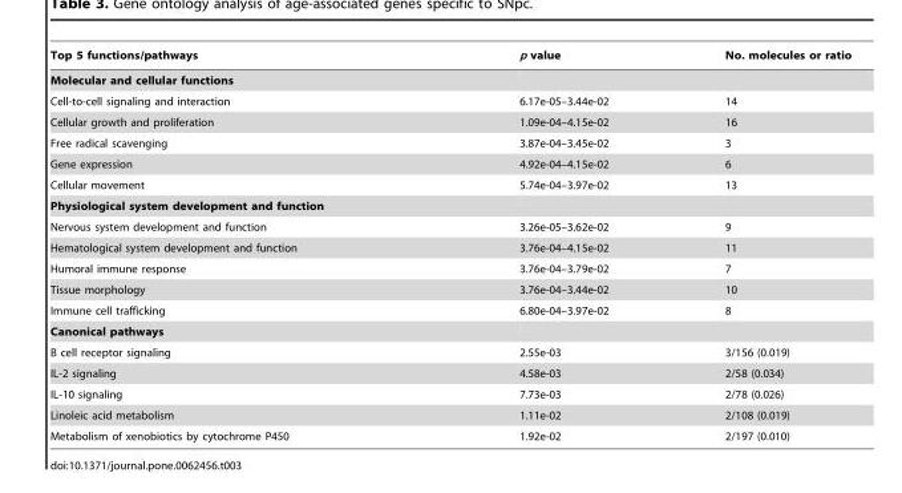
<table><thead><tr><td>Top 5 functions/pathways</td><td>p value</td><td>No. molecules or ratio</td></tr></thead><tbody><tr><td colspan="3">Molecular and cellular functions</td></tr><tr><td>Cell-to-cell signaling and interaction</td><td>6.17e-05–3.44e-02</td><td>14</td></tr><tr><td>Cellular growth and proliferation</td><td>1.09e-04–4.15e-02</td><td>16</td></tr><tr><td>Free radical scavenging</td><td>3.87e-04–3.45e-02</td><td>3</td></tr><tr><td>Gene expression</td><td>4.92e-04–4.15e-02</td><td>6</td></tr><tr><td>Cellular movement</td><td>5.74e-04–3.97e-02</td><td>13</td></tr><tr><td colspan="3">Physiological system development and function</td></tr><tr><td>Nervous system development and function</td><td>3.26e-05–3.62e-02</td><td>9</td></tr><tr><td>Hematological system development and function</td><td>3.76e-04–4.15e-02</td><td>11</td></tr><tr><td>Humoral immune response</td><td>3.76e-04–3.79e-02</td><td>7</td></tr><tr><td>Tissue morphology</td><td>3.76e-04–3.44e-02</td><td>10</td></tr><tr><td>Immune cell trafficking</td><td>6.80e-04–3.97e-02</td><td>8</td></tr><tr><td colspan="3">Canonical pathways</td></tr><tr><td>B cell receptor signaling</td><td>2.55e-03</td><td>3/156 (0.019)</td></tr><tr><td>IL-2 signaling</td><td>4.58e-03</td><td>2/58 (0.034)</td></tr><tr><td>IL-10 signaling</td><td>7.73e-03</td><td>2/78 (0.026)</td></tr><tr><td>Linoleic acid metabolism</td><td>1.11e-02</td><td>2/108 (0.019)</td></tr><tr><td>Metabolism of xenobiotics by cytochrome P450</td><td>1.92e-02</td><td>2/197 (0.010)</td></tr></tbody></table>